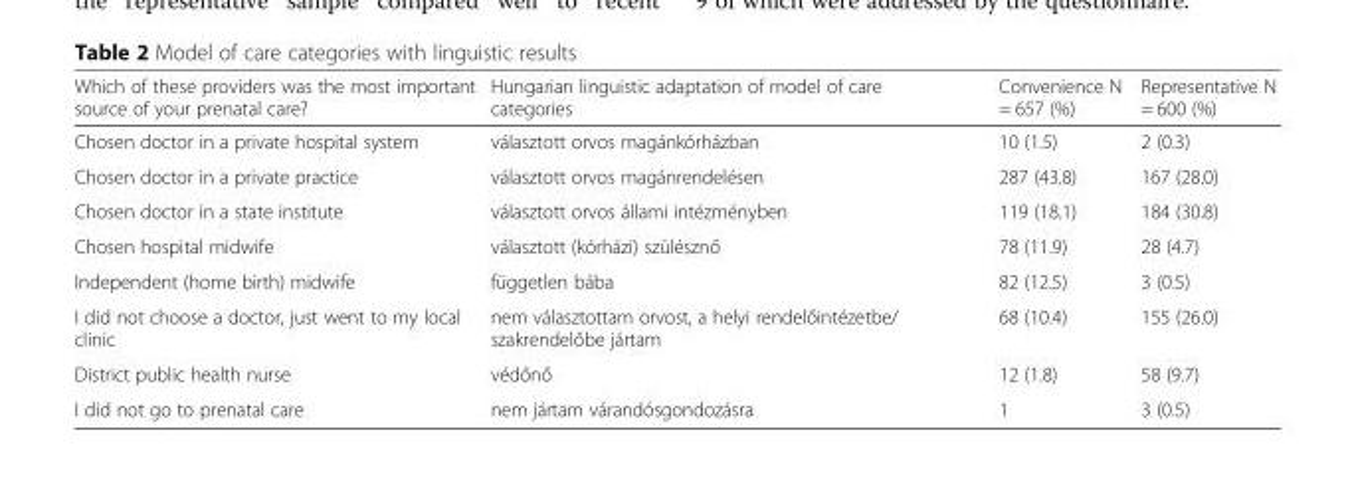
<table><thead><tr><td>Which of these providers was the most important source of your prenatal care?</td><td>Hungarian linguistic adaptation of model of care categories</td><td>Convenience N = 657 (%)</td><td>Representative N = 600 (%)</td></tr></thead><tbody><tr><td>Chosen doctor in a private hospital system</td><td>választott orvos magánkórházban</td><td>10 (1.5)</td><td>2 (0.3)</td></tr><tr><td>Chosen doctor in a private practice</td><td>választott orvos magánrendelésen</td><td>287 (43.8)</td><td>167 (28.0)</td></tr><tr><td>Chosen doctor in a state institute</td><td>választott orvos állami intézményben</td><td>119 (18.1)</td><td>184 (30.8)</td></tr><tr><td>Chosen hospital midwife</td><td>választott (kórházi) szülésznő</td><td>78 (11.9)</td><td>28 (4.7)</td></tr><tr><td>Independent (home birth) midwife</td><td>független bába</td><td>82 (12.5)</td><td>3 (0.5)</td></tr><tr><td>I did not choose a doctor, just went to my local clinic</td><td>nem választottam orvost, a helyi rendelőintézetbe/ szakrendelőbe jártam</td><td>68 (10.4)</td><td>155 (26.0)</td></tr><tr><td>District public health nurse</td><td>védőnő</td><td>12 (1.8)</td><td>58 (9.7)</td></tr><tr><td>I did not go to prenatal care</td><td>nem jártam várandósgondozásra</td><td>1</td><td>3 (0.5)</td></tr></tbody></table>